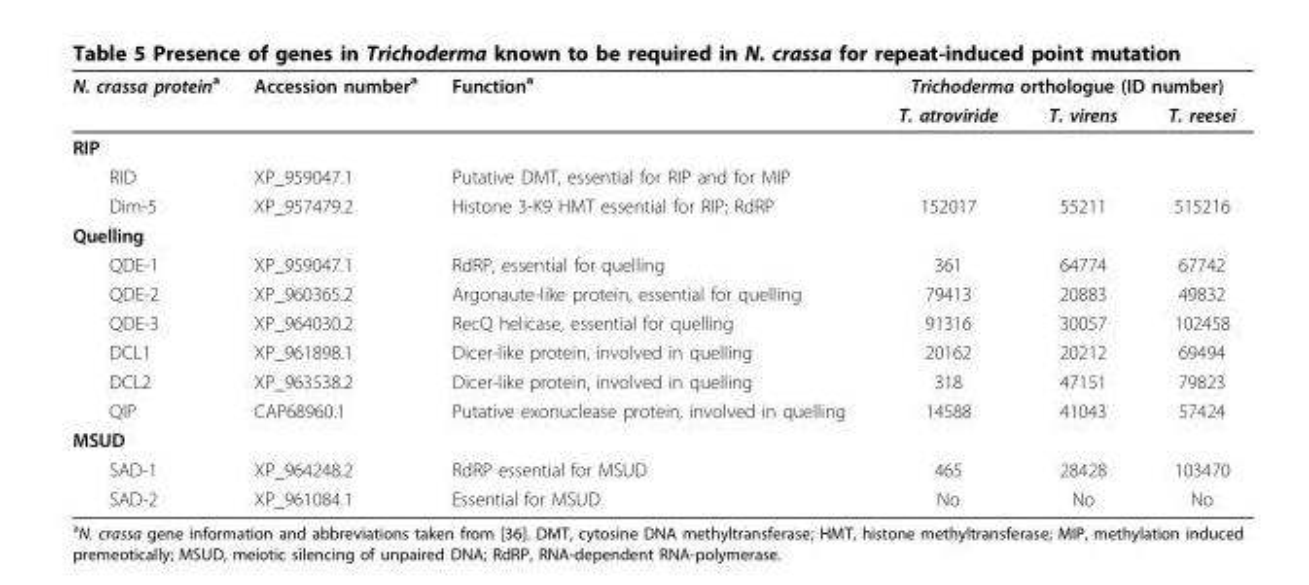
<table><thead><tr><td rowspan="2">N. crassa protein<sup>a</sup></td><td rowspan="2">Accession number<sup>a</sup></td><td rowspan="2">Function<sup>a</sup></td><td colspan="3">Trichoderma orthologue (ID number)</td></tr><tr><td>T. atroviride</td><td>T. virens</td><td>T. reesei</td></tr></thead><tbody><tr><td colspan="6">RIP</td></tr><tr><td>RID</td><td>XP_959047.1</td><td>Putative DMT, essential for RIP and for MIP</td><td></td><td></td><td></td></tr><tr><td>Dim-5</td><td>XP_957479.2</td><td>Histone 3-K9 HMT essential for RIP; RdRP</td><td>152017</td><td>55211</td><td>515216</td></tr><tr><td colspan="6">Quelling</td></tr><tr><td>QDE-1</td><td>XP_959047.1</td><td>RdRP, essential for quelling</td><td>361</td><td>64774</td><td>67742</td></tr><tr><td>QDE-2</td><td>XP_960365.2</td><td>Argonaute-like protein, essential for quelling</td><td>79413</td><td>20883</td><td>49832</td></tr><tr><td>QDE-3</td><td>XP_964030.2</td><td>RecQ helicase, essential for quelling</td><td>91316</td><td>30057</td><td>102458</td></tr><tr><td>DCL1</td><td>XP_961898.1</td><td>Dicer-like protein, involved in quelling</td><td>20162</td><td>20212</td><td>69494</td></tr><tr><td>DCL2</td><td>XP_963538.2</td><td>Dicer-like protein, involved in quelling</td><td>318</td><td>47151</td><td>79823</td></tr><tr><td>QIP</td><td>CAP68960.1</td><td>Putative exonuclease protein, involved in quelling</td><td>14588</td><td>41043</td><td>57424</td></tr><tr><td colspan="6">MSUD</td></tr><tr><td>SAD-1</td><td>XP_964248.2</td><td>RdRP essential for MSUD</td><td>465</td><td>28428</td><td>103470</td></tr><tr><td>SAD-2</td><td>XP_961084.1</td><td>Essential for MSUD</td><td>No</td><td>No</td><td>No</td></tr></tbody></table>